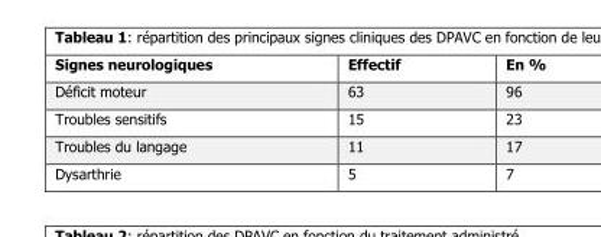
<table><thead><tr><td>Signes neurologiques</td><td>Effectif</td><td>En %</td></tr></thead><tbody><tr><td>Déficit moteur</td><td>63</td><td>96</td></tr><tr><td>Troubles sensitifs</td><td>15</td><td>23</td></tr><tr><td>Troubles du langage</td><td>11</td><td>17</td></tr><tr><td>Dysarthrie</td><td>5</td><td>7</td></tr></tbody></table>